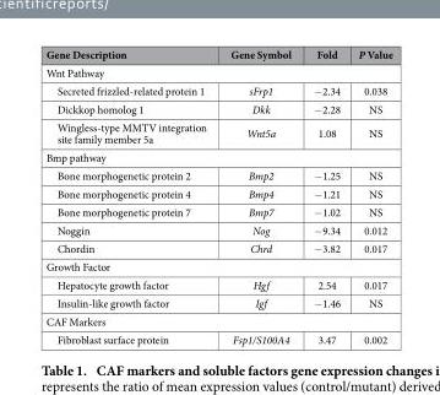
<table><thead><tr><td>Gene Description</td><td>Gene Symbol</td><td>Fold</td><td>P Value</td></tr></thead><tbody><tr><td colspan="4">Wnt Pathway</td></tr><tr><td>Secreted frizzled-related protein 1</td><td>sFrp1</td><td>− 2.34</td><td>0.038</td></tr><tr><td>Dickkop homolog 1</td><td>Dkk</td><td>− 2.28</td><td>NS</td></tr><tr><td>Wingless-type MMTV integration site family member 5a</td><td>Wnt5a</td><td>1.08</td><td>NS</td></tr><tr><td colspan="4">Bmp pathway</td></tr><tr><td>Bone morphogenetic protein 2</td><td>Bmp2</td><td>− 1.25</td><td>NS</td></tr><tr><td>Bone morphogenetic protein 4</td><td>Bmp4</td><td>− 1.21</td><td>NS</td></tr><tr><td>Bone morphogenetic protein 7</td><td>Bmp7</td><td>− 1.02</td><td>NS</td></tr><tr><td>Noggin</td><td>Nog</td><td>− 9.34</td><td>0.012</td></tr><tr><td>Chordin</td><td>Chrd</td><td>− 3.82</td><td>0.017</td></tr><tr><td colspan="4">Growth Factor</td></tr><tr><td>Hepatocyte growth factor</td><td>Hgf</td><td>2.54</td><td>0.017</td></tr><tr><td>Insulin-like growth factor</td><td>Igf</td><td>− 1.46</td><td>NS</td></tr><tr><td colspan="4">CAF Markers</td></tr><tr><td>Fibroblast surface protein</td><td>Fsp1/S100A4</td><td>3.47</td><td>0.002</td></tr></tbody></table>